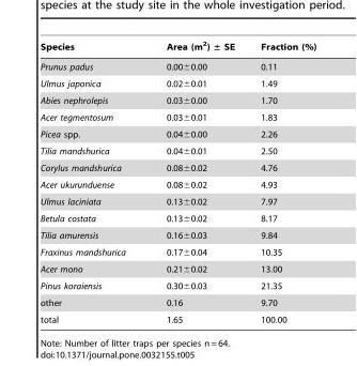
<table><thead><tr><td>Species</td><td>Area (m<sup>2</sup>) ± SE</td><td>Fraction (%)</td></tr></thead><tbody><tr><td>Prunus padus</td><td>0.00±0.00</td><td>0.11</td></tr><tr><td>Ulmus japonica</td><td>0.02±0.01</td><td>1.49</td></tr><tr><td>Abies nephrolepis</td><td>0.03±0.00</td><td>1.70</td></tr><tr><td>Acer tegmentosum</td><td>0.03±0.01</td><td>1.83</td></tr><tr><td>Picea spp.</td><td>0.04±0.00</td><td>2.26</td></tr><tr><td>Tilia mandshurica</td><td>0.04±0.01</td><td>2.50</td></tr><tr><td>Corylus mandshurica</td><td>0.08±0.02</td><td>4.76</td></tr><tr><td>Acer ukurunduense</td><td>0.08±0.02</td><td>4.93</td></tr><tr><td>Ulmus laciniata</td><td>0.13±0.02</td><td>7.97</td></tr><tr><td>Betula costata</td><td>0.13±0.02</td><td>8.17</td></tr><tr><td>Tilia amurensis</td><td>0.16±0.03</td><td>9.84</td></tr><tr><td>Fraxinus mandshurica</td><td>0.17±0.04</td><td>10.35</td></tr><tr><td>Acer mono</td><td>0.21±0.02</td><td>13.00</td></tr><tr><td>Pinus koraiensis</td><td>0.30±0.03</td><td>21.35</td></tr><tr><td>other</td><td>0.16</td><td>9.70</td></tr><tr><td>total</td><td>1.65</td><td>100.00</td></tr></tbody></table>